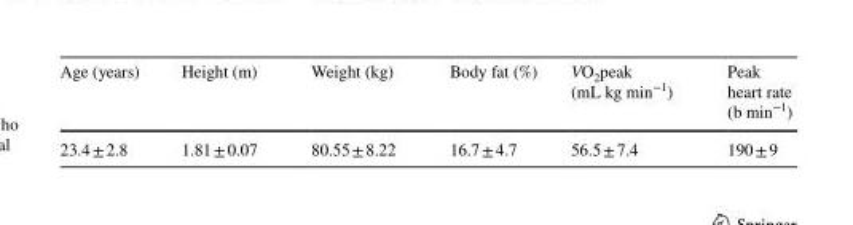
<table><thead><tr><td>Age (years)</td><td>Height (m)</td><td>Weight (kg)</td><td>Body fat (%)</td><td>VO<sub>2</sub>peak (mL kg min<sup>−1</sup>)</td><td>Peak heart rate (b min<sup>−1</sup>)</td></tr></thead><tbody><tr><td>23.4 ± 2.8</td><td>1.81 ± 0.07</td><td>80.55 ± 8.22</td><td>16.7 ± 4.7</td><td>56.5 ± 7.4</td><td>190 ± 9</td></tr></tbody></table>